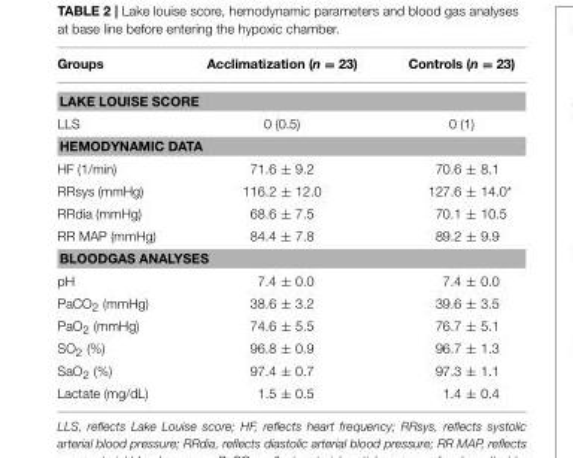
<table><thead><tr><td>Groups</td><td>Acclimatization (n = 23)</td><td>Controls (n = 23)</td></tr></thead><tbody><tr><td colspan="3">LAKE LOUISE SCORE</td></tr><tr><td>LLS</td><td>0 (0.5)</td><td>0 (1)</td></tr><tr><td colspan="3">HEMODYNAMIC DATA</td></tr><tr><td>HF (1/min)</td><td>71.6 ± 9.2</td><td>70.6 ± 8.1</td></tr><tr><td>RRsys (mmHg)</td><td>116.2 ± 12.0</td><td>127.6 ± 14.0*</td></tr><tr><td>RRdia (mmHg)</td><td>68.6 ± 7.5</td><td>70.1 ± 10.5</td></tr><tr><td>RR MAP (mmHg)</td><td>84.4 ± 7.8</td><td>89.2 ± 9.9</td></tr><tr><td colspan="3">BLOODGAS ANALYSES</td></tr><tr><td>pH</td><td>7.4 ± 0.0</td><td>7.4 ± 0.0</td></tr><tr><td>PaCO<sub>2</sub> (mmHg)</td><td>38.6 ± 3.2</td><td>39.6 ± 3.5</td></tr><tr><td>PaO<sub>2</sub> (mmHg)</td><td>74.6 ± 5.5</td><td>76.7 ± 5.1</td></tr><tr><td>SO<sub>2</sub> (%)</td><td>96.8 ± 0.9</td><td>96.7 ± 1.3</td></tr><tr><td>SaO<sub>2</sub> (%)</td><td>97.4 ± 0.7</td><td>97.3 ± 1.1</td></tr><tr><td>Lactate (mg/dL)</td><td>1.5 ± 0.5</td><td>1.4 ± 0.4</td></tr></tbody></table>